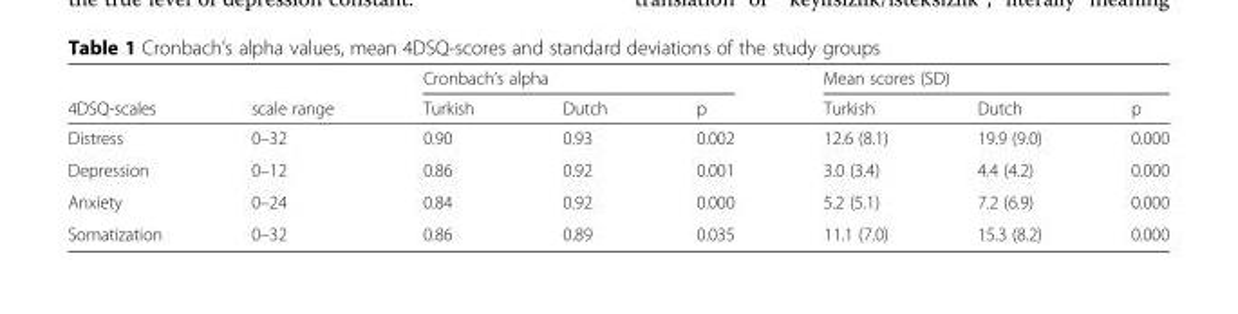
<table><thead><tr><td rowspan="2">4DSQ-scales</td><td rowspan="2">scale range</td><td colspan="3">Cronbach’s alpha</td><td colspan="3">Mean scores (SD)</td></tr><tr><td>Turkish</td><td>Dutch</td><td>p</td><td>Turkish</td><td>Dutch</td><td>p</td></tr></thead><tbody><tr><td>Distress</td><td>0–32</td><td>0.90</td><td>0.93</td><td>0.002</td><td>12.6 (8.1)</td><td>19.9 (9.0)</td><td>0.000</td></tr><tr><td>Depression</td><td>0–12</td><td>0.86</td><td>0.92</td><td>0.001</td><td>3.0 (3.4)</td><td>4.4 (4.2)</td><td>0.000</td></tr><tr><td>Anxiety</td><td>0–24</td><td>0.84</td><td>0.92</td><td>0.000</td><td>5.2 (5.1)</td><td>7.2 (6.9)</td><td>0.000</td></tr><tr><td>Somatization</td><td>0–32</td><td>0.86</td><td>0.89</td><td>0.035</td><td>11.1 (7.0)</td><td>15.3 (8.2)</td><td>0.000</td></tr></tbody></table>